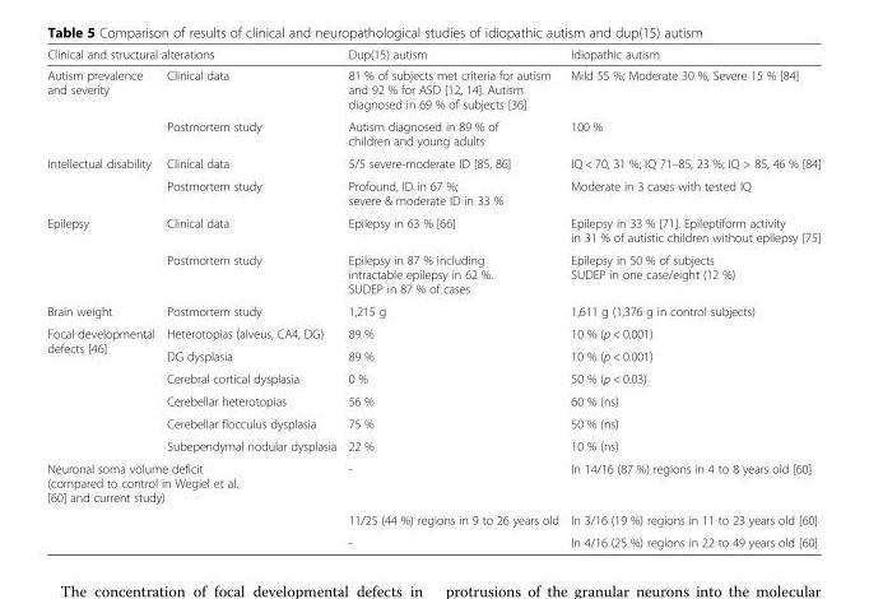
<table><thead><tr><td colspan="2">Clinical and structural alterations</td><td rowspan="2">Dup(15) autism 81 % of subjects met criteria for autism and 92 % for ASD [12, 14]. Autism diagnosed in 69 % of subjects [36]</td><td rowspan="2">Idiopathic autism Mild 55 %; Moderate 30 %, Severe 15 % [84]</td></tr><tr><td>Autism prevalence and severity</td><td>Clinical data</td></tr></thead><tbody><tr><td></td><td>Postmortem study</td><td>Autism diagnosed in 89 % of children and young adults</td><td>100 %</td></tr><tr><td rowspan="2">Intellectual disability</td><td>Clinical data</td><td>5/5 severe-moderate ID [85, 86]</td><td>IQ &lt; 70, 31 %; IQ 71–85, 23 %; IQ &gt; 85, 46 % [84]</td></tr><tr><td>Postmortem study</td><td>Profound, ID in 67 %; severe &amp; moderate ID in 33 %</td><td>Moderate in 3 cases with tested IQ</td></tr><tr><td rowspan="2">Epilepsy</td><td>Clinical data</td><td>Epilepsy in 63 % [66]</td><td>Epilepsy in 33 % [71]. Epileptiform activity in 31 % of autistic children without epilepsy [75]</td></tr><tr><td>Postmortem study</td><td>Epilepsy in 87 % including intractable epilepsy in 62 %. SUDEP in 87 % of cases</td><td>Epilepsy in 50 % of subjects SUDEP in one case/eight (12 %)</td></tr><tr><td>Brain weight</td><td>Postmortem study</td><td>1,215 g</td><td>1,611 g (1,376 g in control subjects)</td></tr><tr><td rowspan="6">Focal developmental defects [46]</td><td>Heterotopias (alveus, CA4, DG)</td><td>89 %</td><td>10 % (p &lt; 0.001)</td></tr><tr><td>DG dysplasia</td><td>89 %</td><td>10 % (p &lt; 0.001)</td></tr><tr><td>Cerebral cortical dysplasia</td><td>0 %</td><td>50 % (p &lt; 0.03)</td></tr><tr><td>Cerebellar heterotopias</td><td>56 %</td><td>60 % (ns)</td></tr><tr><td>Cerebellar flocculus dysplasia</td><td>75 %</td><td>50 % (ns)</td></tr><tr><td>Subependymal nodular dysplasia</td><td>22 %</td><td>10 % (ns)</td></tr><tr><td colspan="2">Neuronal soma volume deficit (compared to control in Wegiel et al. [60] and current study)</td><td>-</td><td>In 14/16 (87 %) regions in 4 to 8 years old [60]</td></tr><tr><td></td><td></td><td>11/25 (44 %) regions in 9 to 26 years old</td><td>In 3/16 (19 %) regions in 11 to 23 years old [60]</td></tr><tr><td></td><td></td><td>-</td><td>In 4/16 (25 %) regions in 22 to 49 years old [60]</td></tr></tbody></table>